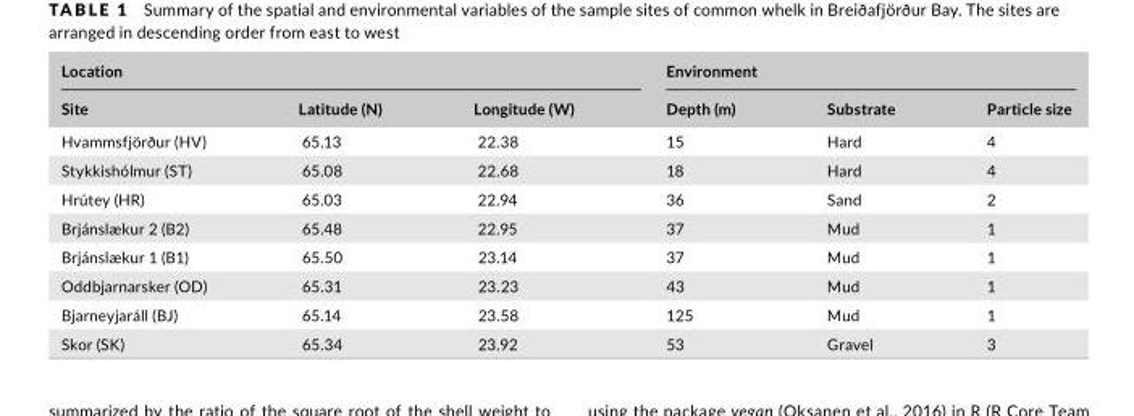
<table><thead><tr><td colspan="3">Location</td><td colspan="3">Environment</td></tr><tr><td>Site</td><td>Latitude (N)</td><td>Longitude (W)</td><td>Depth (m)</td><td>Substrate</td><td>Particle size</td></tr></thead><tbody><tr><td>Hvammsfjörður (HV)</td><td>65.13</td><td>22.38</td><td>15</td><td>Hard</td><td>4</td></tr><tr><td>Stykkishólmur (ST)</td><td>65.08</td><td>22.68</td><td>18</td><td>Hard</td><td>4</td></tr><tr><td>Hrútey (HR)</td><td>65.03</td><td>22.94</td><td>36</td><td>Sand</td><td>2</td></tr><tr><td>Brjánslækur 2 (B2)</td><td>65.48</td><td>22.95</td><td>37</td><td>Mud</td><td>1</td></tr><tr><td>Brjánslækur 1 (B1)</td><td>65.50</td><td>23.14</td><td>37</td><td>Mud</td><td>1</td></tr><tr><td>Oddbjarnarsker (OD)</td><td>65.31</td><td>23.23</td><td>43</td><td>Mud</td><td>1</td></tr><tr><td>Bjarneyjaráll (BJ)</td><td>65.14</td><td>23.58</td><td>125</td><td>Mud</td><td>1</td></tr><tr><td>Skor (SK)</td><td>65.34</td><td>23.92</td><td>53</td><td>Gravel</td><td>3</td></tr></tbody></table>